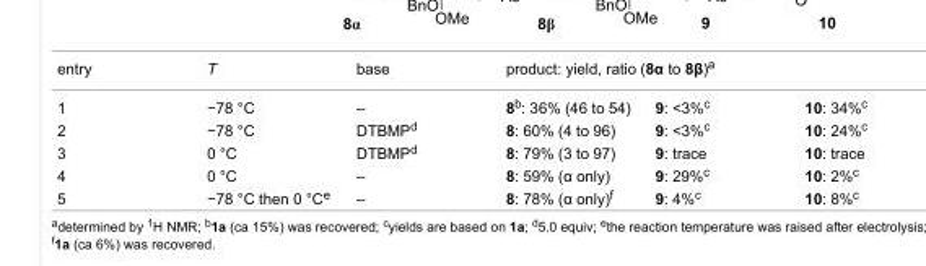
<table><tbody><tr><td>entry</td><td>T</td><td>base</td><td colspan="3">product: yield, ratio (8α to 8β)<sup>a</sup></td></tr><tr><td>1</td><td>−78 °C</td><td>–</td><td>8<sup>b</sup>: 36% (46 to 54)</td><td>9: &lt;3%<sup>c</sup></td><td>10: 34%<sup>c</sup></td></tr><tr><td>2</td><td>−78 °C</td><td>DTBMP<sup>d</sup></td><td>8: 60% (4 to 96)</td><td>9: &lt;3%<sup>c</sup></td><td>10: 24%<sup>c</sup></td></tr><tr><td>3</td><td>0 °C</td><td>DTBMP<sup>d</sup></td><td>8: 79% (3 to 97)</td><td>9: trace</td><td>10: trace</td></tr><tr><td>4</td><td>0 °C</td><td>–</td><td>8: 59% (α only)</td><td>9: 29%<sup>c</sup></td><td>10: 2%<sup>c</sup></td></tr><tr><td>5</td><td>−78 °C then 0 °C<sup>e</sup></td><td>–</td><td>8: 78% (α only)<sup>f</sup></td><td>9: 4%<sup>c</sup></td><td>10: 8%<sup>c</sup></td></tr></tbody></table>